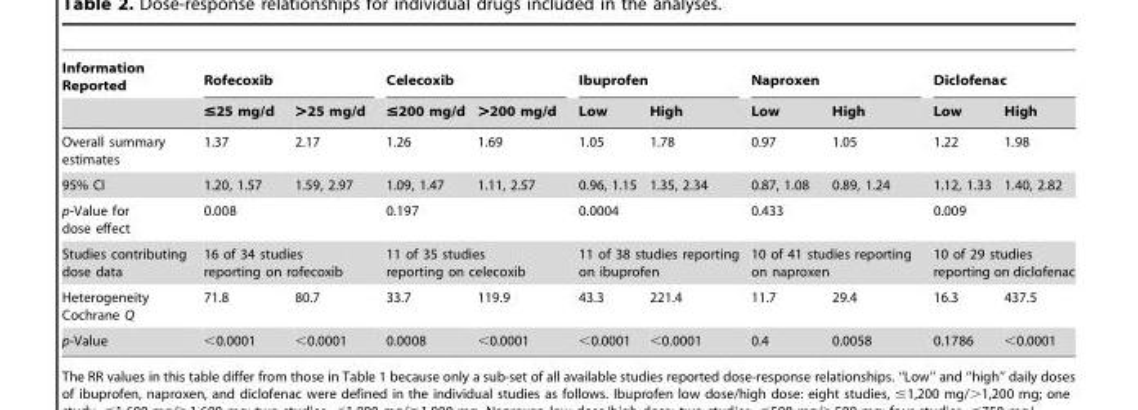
<table><thead><tr><td rowspan="2">Information Reported</td><td colspan="2">Rofecoxib</td><td colspan="2">Celecoxib</td><td colspan="2">Ibuprofen</td><td colspan="2">Naproxen</td><td colspan="2">Diclofenac</td></tr><tr><td>≤25 mg/d</td><td>&gt;25 mg/d</td><td>≤200 mg/d</td><td>&gt;200 mg/d</td><td>Low</td><td>High</td><td>Low</td><td>High</td><td>Low</td><td>High</td></tr></thead><tbody><tr><td>Overall summary estimates</td><td>1.37</td><td>2.17</td><td>1.26</td><td>1.69</td><td>1.05</td><td>1.78</td><td>0.97</td><td>1.05</td><td>1.22</td><td>1.98</td></tr><tr><td>95% CI</td><td>1.20, 1.57</td><td>1.59, 2.97</td><td>1.09, 1.47</td><td>1.11, 2.57</td><td>0.96, 1.15</td><td>1.35, 2.34</td><td>0.87, 1.08</td><td>0.89, 1.24</td><td>1.12, 1.33</td><td>1.40, 2.82</td></tr><tr><td>p-Value for dose effect</td><td colspan="2">0.008</td><td colspan="2">0.197</td><td colspan="2">0.0004</td><td colspan="2">0.433</td><td colspan="2">0.009</td></tr><tr><td>Studies contributing dose data</td><td colspan="2">16 of 34 studies reporting on rofecoxib</td><td colspan="2">11 of 35 studies reporting on celecoxib</td><td colspan="2">11 of 38 studies reporting on ibuprofen</td><td colspan="2">10 of 41 studies reporting on naproxen</td><td colspan="2">10 of 29 studies reporting on diclofenac</td></tr><tr><td>Heterogeneity Cochrane Q</td><td>71.8</td><td>80.7</td><td>33.7</td><td>119.9</td><td>43.3</td><td>221.4</td><td>11.7</td><td>29.4</td><td>16.3</td><td>437.5</td></tr><tr><td>p-Value</td><td>&lt;0.0001</td><td>&lt;0.0001</td><td>0.0008</td><td>&lt;0.0001</td><td>&lt;0.0001</td><td>&lt;0.0001</td><td>0.4</td><td>0.0058</td><td>0.1786</td><td>&lt;0.0001</td></tr></tbody></table>